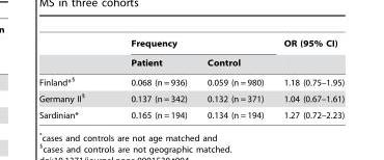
<table><thead><tr><td rowspan="2"></td><td colspan="2">Frequency</td><td rowspan="2">OR (95% CI)</td></tr><tr><td>Patient</td><td>Control</td></tr></thead><tbody><tr><td>Finland*§</td><td>0.068 (n = 936)</td><td>0.059 (n = 980)</td><td>1.18 (0.75–1.95)</td></tr><tr><td>Germany II§</td><td>0.137 (n = 342)</td><td>0.132 (n = 371)</td><td>1.04 (0.67–1.61)</td></tr><tr><td>Sardinian*</td><td>0.165 (n = 194)</td><td>0.134 (n = 194)</td><td>1.27 (0.72–2.23)</td></tr></tbody></table>